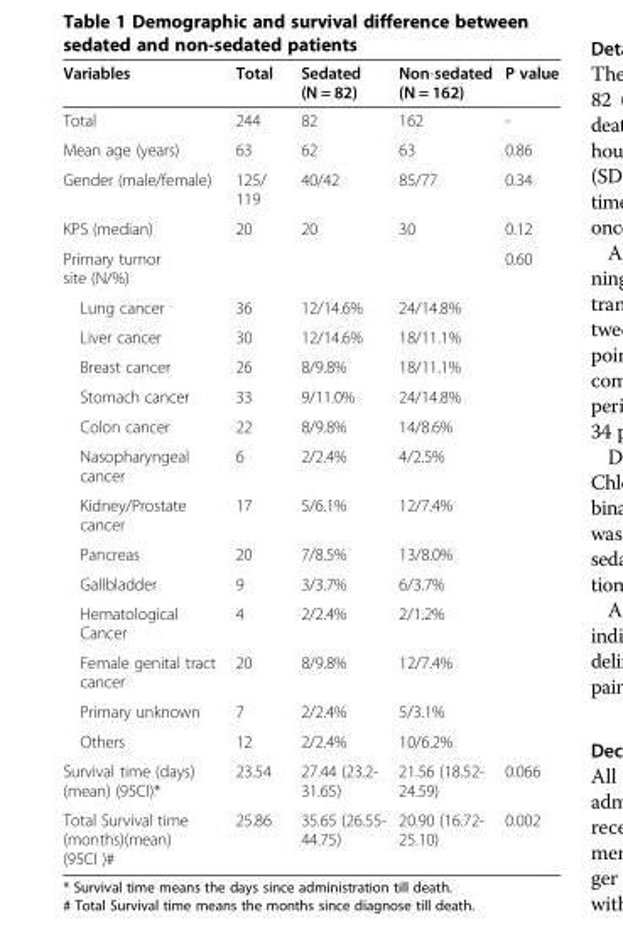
<table><thead><tr><td>Variables</td><td>Total</td><td>Sedated (N = 82)</td><td>Non-sedated (N = 162)</td><td>P value</td></tr></thead><tbody><tr><td>Total</td><td>244</td><td>82</td><td>162</td><td>-</td></tr><tr><td>Mean age (years)</td><td>63</td><td>62</td><td>63</td><td>0.86</td></tr><tr><td>Gender (male/female)</td><td>125/ 119</td><td>40/42</td><td>85/77</td><td>0.34</td></tr><tr><td>KPS (median)</td><td>20</td><td>20</td><td>30</td><td>0.12</td></tr><tr><td>Primary tumor site (N/%)</td><td></td><td></td><td></td><td>0.60</td></tr><tr><td>Lung cancer</td><td>36</td><td>12/14.6%</td><td>24/14.8%</td><td></td></tr><tr><td>Liver cancer</td><td>30</td><td>12/14.6%</td><td>18/11.1%</td><td></td></tr><tr><td>Breast cancer</td><td>26</td><td>8/9.8%</td><td>18/11.1%</td><td></td></tr><tr><td>Stomach cancer</td><td>33</td><td>9/11.0%</td><td>24/14.8%</td><td></td></tr><tr><td>Colon cancer</td><td>22</td><td>8/9.8%</td><td>14/8.6%</td><td></td></tr><tr><td>Nasopharyngeal cancer</td><td>6</td><td>2/2.4%</td><td>4/2.5%</td><td></td></tr><tr><td>Kidney/Prostate cancer</td><td>17</td><td>5/6.1%</td><td>12/7.4%</td><td></td></tr><tr><td>Pancreas</td><td>20</td><td>7/8.5%</td><td>13/8.0%</td><td></td></tr><tr><td>Gallbladder</td><td>9</td><td>3/3.7%</td><td>6/3.7%</td><td></td></tr><tr><td>Hematological Cancer</td><td>4</td><td>2/2.4%</td><td>2/1.2%</td><td></td></tr><tr><td>Female genital tract cancer</td><td>20</td><td>8/9.8%</td><td>12/7.4%</td><td></td></tr><tr><td>Primary unknown</td><td>7</td><td>2/2.4%</td><td>5/3.1%</td><td></td></tr><tr><td>Others</td><td>12</td><td>2/2.4%</td><td>10/6.2%</td><td></td></tr><tr><td>Survival time (days) (mean) (95CI)*</td><td>23.54</td><td>27.44 (23.2- 31.65)</td><td>21.56 (18.52- 24.59)</td><td>0.066</td></tr><tr><td>Total Survival time (months)(mean) (95CI )#</td><td>25.86</td><td>35.65 (26.55- 44.75)</td><td>20.90 (16.72- 25.10)</td><td>0.002</td></tr></tbody></table>